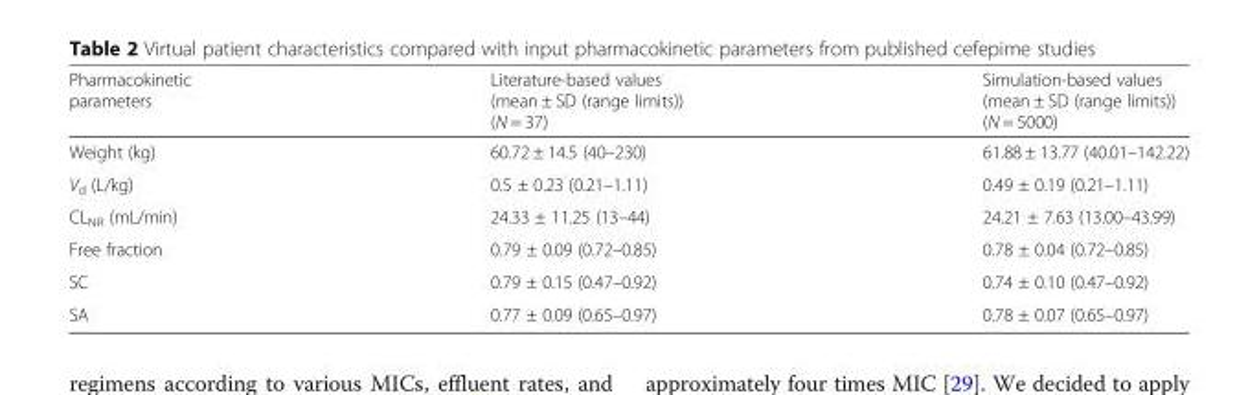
<table><thead><tr><td>Pharmacokinetic parameters</td><td>Literature-based values (mean ± SD (range limits)) (N = 37)</td><td>Simulation-based values (mean ± SD (range limits)) (N = 5000)</td></tr></thead><tbody><tr><td>Weight (kg)</td><td>60.72 ± 14.5 (40–230)</td><td>61.88 ± 13.77 (40.01–142.22)</td></tr><tr><td>V<sub>d</sub> (L/kg)</td><td>0.5 ± 0.23 (0.21–1.11)</td><td>0.49 ± 0.19 (0.21–1.11)</td></tr><tr><td>CL<sub>NR</sub> (mL/min)</td><td>24.33 ± 11.25 (13–44)</td><td>24.21 ± 7.63 (13.00–43.99)</td></tr><tr><td>Free fraction</td><td>0.79 ± 0.09 (0.72–0.85)</td><td>0.78 ± 0.04 (0.72–0.85)</td></tr><tr><td>SC</td><td>0.79 ± 0.15 (0.47–0.92)</td><td>0.74 ± 0.10 (0.47–0.92)</td></tr><tr><td>SA</td><td>0.77 ± 0.09 (0.65–0.97)</td><td>0.78 ± 0.07 (0.65–0.97)</td></tr></tbody></table>